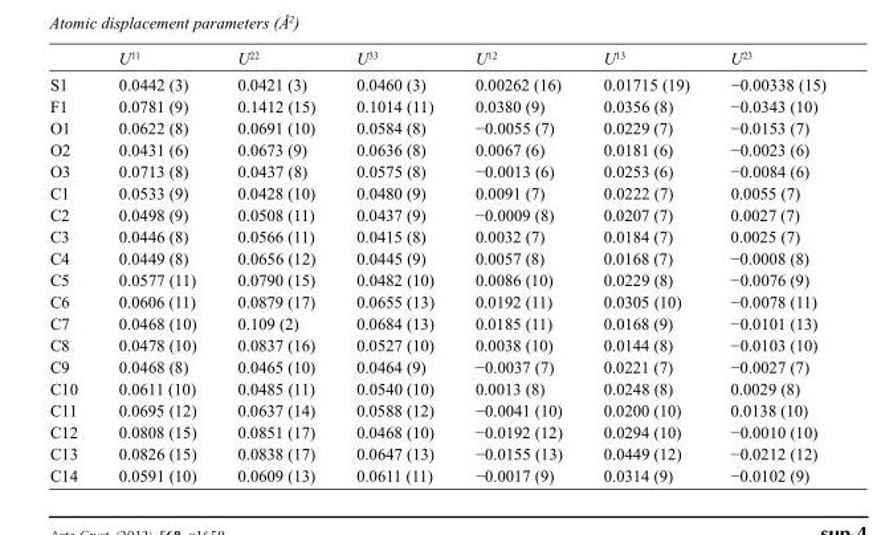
<table><thead><tr><td></td><td>U<sup>11</sup></td><td>U<sup>22</sup></td><td>U<sup>33</sup></td><td>U<sup>12</sup></td><td>U<sup>13</sup></td><td>U<sup>23</sup></td></tr></thead><tbody><tr><td>S1</td><td>0.0442 (3)</td><td>0.0421 (3)</td><td>0.0460 (3)</td><td>0.00262 (16)</td><td>0.01715 (19)</td><td>−0.00338 (15)</td></tr><tr><td>F1</td><td>0.0781 (9)</td><td>0.1412 (15)</td><td>0.1014 (11)</td><td>0.0380 (9)</td><td>0.0356 (8)</td><td>−0.0343 (10)</td></tr><tr><td>O1</td><td>0.0622 (8)</td><td>0.0691 (10)</td><td>0.0584 (8)</td><td>−0.0055 (7)</td><td>0.0229 (7)</td><td>−0.0153 (7)</td></tr><tr><td>O2</td><td>0.0431 (6)</td><td>0.0673 (9)</td><td>0.0636 (8)</td><td>0.0067 (6)</td><td>0.0181 (6)</td><td>−0.0023 (6)</td></tr><tr><td>O3</td><td>0.0713 (8)</td><td>0.0437 (8)</td><td>0.0575 (8)</td><td>−0.0013 (6)</td><td>0.0253 (6)</td><td>−0.0084 (6)</td></tr><tr><td>C1</td><td>0.0533 (9)</td><td>0.0428 (10)</td><td>0.0480 (9)</td><td>0.0091 (7)</td><td>0.0222 (7)</td><td>0.0055 (7)</td></tr><tr><td>C2</td><td>0.0498 (9)</td><td>0.0508 (11)</td><td>0.0437 (9)</td><td>−0.0009 (8)</td><td>0.0207 (7)</td><td>0.0027 (7)</td></tr><tr><td>C3</td><td>0.0446 (8)</td><td>0.0566 (11)</td><td>0.0415 (8)</td><td>0.0032 (7)</td><td>0.0184 (7)</td><td>0.0025 (7)</td></tr><tr><td>C4</td><td>0.0449 (8)</td><td>0.0656 (12)</td><td>0.0445 (9)</td><td>0.0057 (8)</td><td>0.0168 (7)</td><td>−0.0008 (8)</td></tr><tr><td>C5</td><td>0.0577 (11)</td><td>0.0790 (15)</td><td>0.0482 (10)</td><td>0.0086 (10)</td><td>0.0229 (8)</td><td>−0.0076 (9)</td></tr><tr><td>C6</td><td>0.0606 (11)</td><td>0.0879 (17)</td><td>0.0655 (13)</td><td>0.0192 (11)</td><td>0.0305 (10)</td><td>−0.0078 (11)</td></tr><tr><td>C7</td><td>0.0468 (10)</td><td>0.109 (2)</td><td>0.0684 (13)</td><td>0.0185 (11)</td><td>0.0168 (9)</td><td>−0.0101 (13)</td></tr><tr><td>C8</td><td>0.0478 (10)</td><td>0.0837 (16)</td><td>0.0527 (10)</td><td>0.0038 (10)</td><td>0.0144 (8)</td><td>−0.0103 (10)</td></tr><tr><td>C9</td><td>0.0468 (8)</td><td>0.0465 (10)</td><td>0.0464 (9)</td><td>−0.0037 (7)</td><td>0.0221 (7)</td><td>−0.0027 (7)</td></tr><tr><td>C10</td><td>0.0611 (10)</td><td>0.0485 (11)</td><td>0.0540 (10)</td><td>0.0013 (8)</td><td>0.0248 (8)</td><td>0.0029 (8)</td></tr><tr><td>C11</td><td>0.0695 (12)</td><td>0.0637 (14)</td><td>0.0588 (12)</td><td>−0.0041 (10)</td><td>0.0200 (10)</td><td>0.0138 (10)</td></tr><tr><td>C12</td><td>0.0808 (15)</td><td>0.0851 (17)</td><td>0.0468 (10)</td><td>−0.0192 (12)</td><td>0.0294 (10)</td><td>−0.0010 (10)</td></tr><tr><td>C13</td><td>0.0826 (15)</td><td>0.0838 (17)</td><td>0.0647 (13)</td><td>−0.0155 (13)</td><td>0.0449 (12)</td><td>−0.0212 (12)</td></tr><tr><td>C14</td><td>0.0591 (10)</td><td>0.0609 (13)</td><td>0.0611 (11)</td><td>−0.0017 (9)</td><td>0.0314 (9)</td><td>−0.0102 (9)</td></tr></tbody></table>